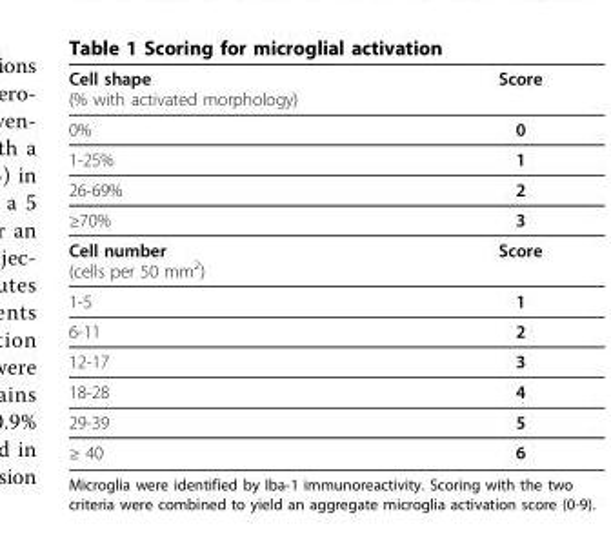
<table><thead><tr><td>Cell shape (% with activated morphology)</td><td>Score</td></tr></thead><tbody><tr><td>0%</td><td>0</td></tr><tr><td>1-25%</td><td>1</td></tr><tr><td>26-69%</td><td>2</td></tr><tr><td>≥70%</td><td>3</td></tr><tr><td>Cell number (cells per 50 mm<sup>2</sup>)</td><td>Score</td></tr><tr><td>1-5</td><td>1</td></tr><tr><td>6-11</td><td>2</td></tr><tr><td>12-17</td><td>3</td></tr><tr><td>18-28</td><td>4</td></tr><tr><td>29-39</td><td>5</td></tr><tr><td>≥ 40</td><td>6</td></tr></tbody></table>